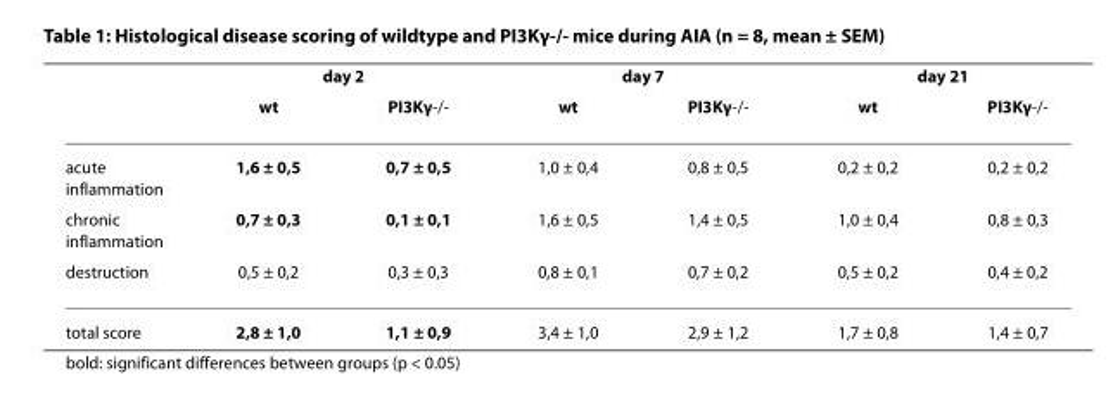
<table><thead><tr><td rowspan="2"></td><td colspan="2">day 2</td><td colspan="2">day 7</td><td colspan="2">day 21</td></tr><tr><td>wt</td><td>PI3Kγ-/-</td><td>wt</td><td>PI3Kγ-/-</td><td>wt</td><td>PI3Kγ-/-</td></tr></thead><tbody><tr><td>acute inflammation</td><td>1,6 ± 0,5</td><td>0,7 ± 0,5</td><td>1,0 ± 0,4</td><td>0,8 ± 0,5</td><td>0,2 ± 0,2</td><td>0,2 ± 0,2</td></tr><tr><td>chronic inflammation</td><td>0,7 ± 0,3</td><td>0,1 ± 0,1</td><td>1,6 ± 0,5</td><td>1,4 ± 0,5</td><td>1,0 ± 0,4</td><td>0,8 ± 0,3</td></tr><tr><td>destruction</td><td>0,5 ± 0,2</td><td>0,3 ± 0,3</td><td>0,8 ± 0,1</td><td>0,7 ± 0,2</td><td>0,5 ± 0,2</td><td>0,4 ± 0,2</td></tr><tr><td>total score</td><td>2,8 ± 1,0</td><td>1,1 ± 0,9</td><td>3,4 ± 1,0</td><td>2,9 ± 1,2</td><td>1,7 ± 0,8</td><td>1,4 ± 0,7</td></tr></tbody></table>